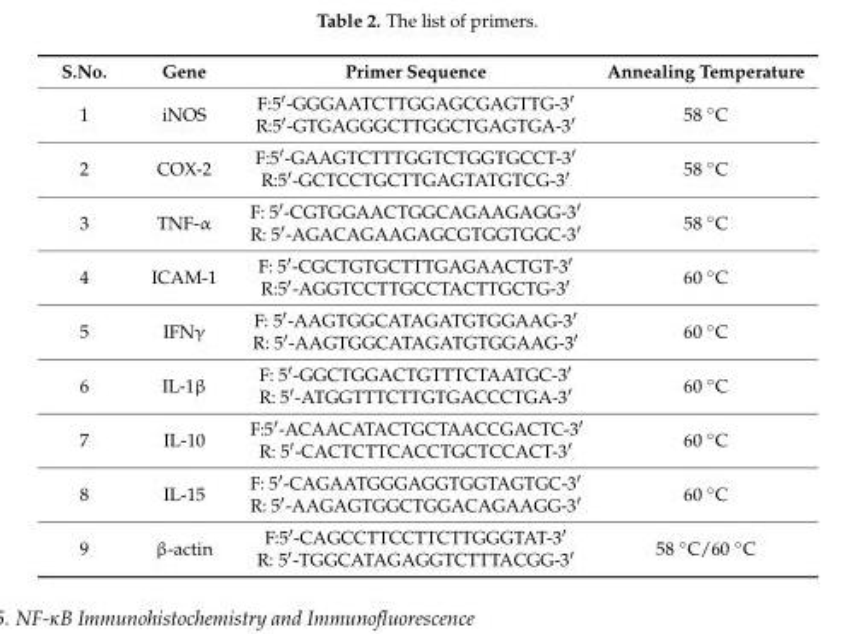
<table><thead><tr><td>S.No.</td><td>Gene</td><td>Primer Sequence</td><td>Annealing Temperature</td></tr></thead><tbody><tr><td>1</td><td>iNOS</td><td>F:5′-GGGAATCTTGGAGCGAGTTG-3′ R:5′-GTGAGGGCTTGGCTGAGTGA-3′</td><td>58 ◦C</td></tr><tr><td>2</td><td>COX-2</td><td>F:5′-GAAGTCTTTGGTCTGGTGCCT-3′ R:5′-GCTCCTGCTTGAGTATGTCG-3′</td><td>58 ◦C</td></tr><tr><td>3</td><td>TNF-α</td><td>F: 5′-CGTGGAACTGGCAGAAGAGG-3′ R: 5′-AGACAGAAGAGCGTGGTGGC-3′</td><td>58 ◦C</td></tr><tr><td>4</td><td>ICAM-1</td><td>F: 5′-CGCTGTGCTTTGAGAACTGT-3′ R:5′-AGGTCCTTGCCTACTTGCTG-3′</td><td>60 ◦C</td></tr><tr><td>5</td><td>IFNγ</td><td>F: 5′-AAGTGGCATAGATGTGGAAG-3′ R: 5′-AAGTGGCATAGATGTGGAAG-3′</td><td>60 ◦C</td></tr><tr><td>6</td><td>IL-1β</td><td>F: 5′-GGCTGGACTGTTTCTAATGC-3′ R: 5′-ATGGTTTCTTGTGACCCTGA-3′</td><td>60 ◦C</td></tr><tr><td>7</td><td>IL-10</td><td>F:5′-ACAACATACTGCTAACCGACTC-3′ R: 5′-CACTCTTCACCTGCTCCACT-3′</td><td>60 ◦C</td></tr><tr><td>8</td><td>IL-15</td><td>F: 5′-CAGAATGGGAGGTGGTAGTGC-3′ R: 5′-AAGAGTGGCTGGACAGAAGG-3′</td><td>60 ◦C</td></tr><tr><td>9</td><td>β-actin</td><td>F:5′-CAGCCTTCCTTCTTGGGTAT-3′ R: 5′-TGGCATAGAGGTCTTTACGG-3′</td><td>58 ◦C/60 ◦C</td></tr></tbody></table>